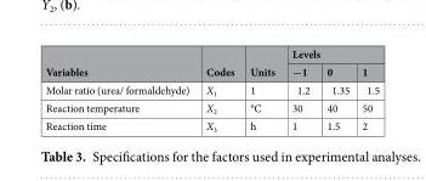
<table><thead><tr><td rowspan="2">Variables</td><td rowspan="2">Codes</td><td rowspan="2">Units</td><td colspan="3">Levels</td></tr><tr><td>−1</td><td>0</td><td>1</td></tr></thead><tbody><tr><td>Molar ratio (urea/ formaldehyde)</td><td>X<sub>1</sub></td><td>1</td><td>1.2</td><td>1.35</td><td>1.5</td></tr><tr><td>Reaction temperature</td><td>X<sub>2</sub></td><td>°C</td><td>30</td><td>40</td><td>50</td></tr><tr><td>Reaction time</td><td>X<sub>3</sub></td><td>h</td><td>1</td><td>1.5</td><td>2</td></tr></tbody></table>